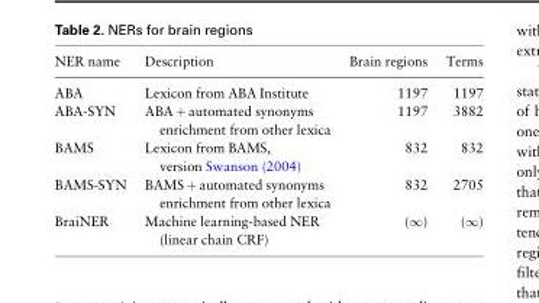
<table><thead><tr><td>NER name</td><td>Description</td><td>Brain regions</td><td>Terms</td></tr></thead><tbody><tr><td>ABA</td><td>Lexicon from ABA Institute</td><td>1197</td><td>1197</td></tr><tr><td>ABA-SYN</td><td>ABA + automated synonyms enrichment from other lexica</td><td>1197</td><td>3882</td></tr><tr><td>BAMS</td><td>Lexicon from BAMS, version Swanson (2004)</td><td>832</td><td>832</td></tr><tr><td>BAMS-SYN</td><td>BAMS + automated synonyms enrichment from other lexica</td><td>832</td><td>2705</td></tr><tr><td>BraiNER</td><td>Machine learning-based NER (linear chain CRF)</td><td>(∞)</td><td>(∞)</td></tr></tbody></table>